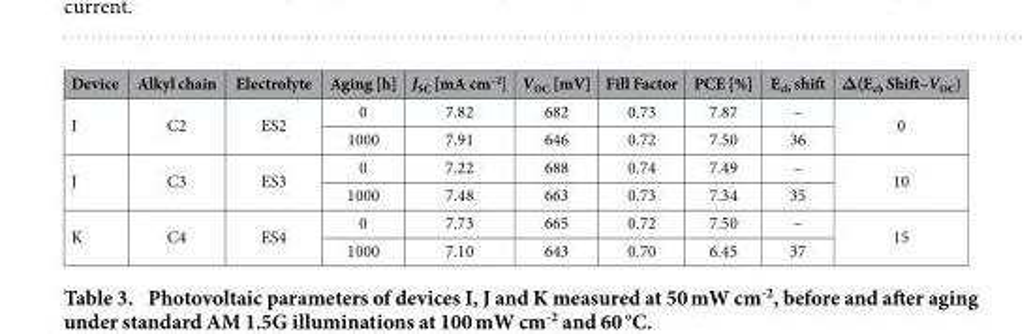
<table><thead><tr><td>Device</td><td>Alkyl chain</td><td>Electrolyte</td><td>Aging [h]</td><td>J<sub>SC</sub> [mA cm<sup>–2</sup>]</td><td>V<sub>OC</sub> [mV]</td><td>Fill Factor</td><td>PCE [%]</td><td>E<sub>cb</sub> shift</td><td>Δ(E<sub>cb</sub> Shift–V<sub>OC</sub>)</td></tr></thead><tbody><tr><td rowspan="2">I</td><td rowspan="2">C2</td><td rowspan="2">ES2</td><td>0</td><td>7.82</td><td>682</td><td>0.73</td><td>7.87</td><td>–</td><td rowspan="2">0</td></tr><tr><td>1000</td><td>7.91</td><td>646</td><td>0.72</td><td>7.50</td><td>36</td></tr><tr><td rowspan="2">J</td><td rowspan="2">C3</td><td rowspan="2">ES3</td><td>0</td><td>7.22</td><td>688</td><td>0.74</td><td>7.49</td><td>–</td><td rowspan="2">10</td></tr><tr><td>1000</td><td>7.48</td><td>663</td><td>0.73</td><td>7.34</td><td>35</td></tr><tr><td rowspan="2">K</td><td rowspan="2">C4</td><td rowspan="2">ES4</td><td>0</td><td>7.73</td><td>665</td><td>0.72</td><td>7.50</td><td>–</td><td rowspan="2">15</td></tr><tr><td>1000</td><td>7.10</td><td>643</td><td>0.70</td><td>6.45</td><td>37</td></tr></tbody></table>